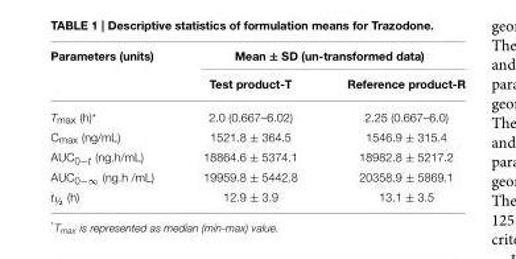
<table><thead><tr><td rowspan="2">Parameters (units)</td><td colspan="2">Mean ± SD (un-transformed data)</td></tr><tr><td>Test product-T</td><td>Reference product-R</td></tr></thead><tbody><tr><td>T<sub>max</sub> (h)*</td><td>2.0 (0.667–6.02)</td><td>2.25 (0.667–6.0)</td></tr><tr><td>C<sub>max</sub> (ng/mL)</td><td>1521.8 ± 364.5</td><td>1546.9 ± 315.4</td></tr><tr><td>AUC<sub>0−t</sub> (ng.h/mL)</td><td>18864.6 ± 5374.1</td><td>18982.8 ± 5217.2</td></tr><tr><td>AUC<sub>0−∞</sub> (ng.h /mL)</td><td>19959.8 ± 5442.8</td><td>20358.9 ± 5869.1</td></tr><tr><td>t<sub>½</sub> (h)</td><td>12.9 ± 3.9</td><td>13.1 ± 3.5</td></tr></tbody></table>